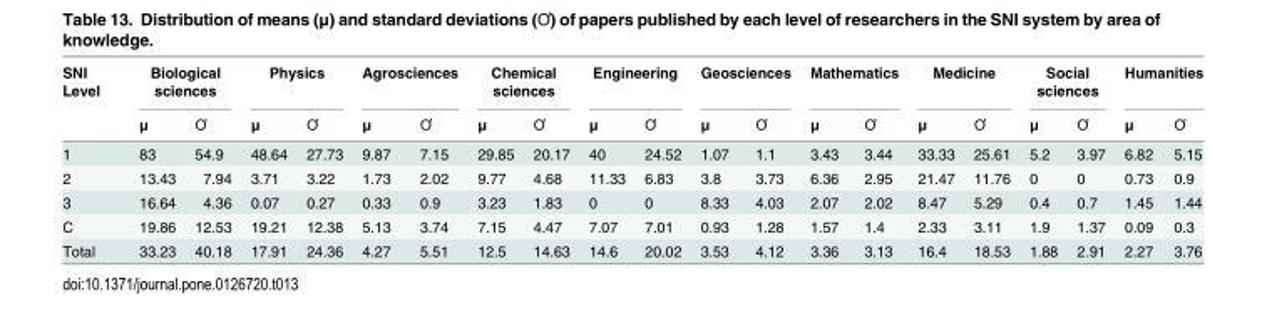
<table><thead><tr><td rowspan="2">SNI Level</td><td colspan="2">Biological sciences</td><td colspan="2">Physics</td><td colspan="2">Agrosciences</td><td colspan="2">Chemical sciences</td><td colspan="2">Engineering</td><td colspan="2">Geosciences</td><td colspan="2">Mathematics</td><td colspan="2">Medicine</td><td colspan="2">Social sciences</td><td colspan="2">Humanities</td></tr><tr><td>μ</td><td>Ơ</td><td>μ</td><td>Ơ</td><td>μ</td><td>Ơ</td><td>μ</td><td>Ơ</td><td>μ</td><td>Ơ</td><td>μ</td><td>Ơ</td><td>μ</td><td>Ơ</td><td>μ</td><td>Ơ</td><td>μ</td><td>Ơ</td><td>μ</td><td>Ơ</td></tr></thead><tbody><tr><td>1</td><td>83</td><td>54.9</td><td>48.64</td><td>27.73</td><td>9.87</td><td>7.15</td><td>29.85</td><td>20.17</td><td>40</td><td>24.52</td><td>1.07</td><td>1.1</td><td>3.43</td><td>3.44</td><td>33.33</td><td>25.61</td><td>5.2</td><td>3.97</td><td>6.82</td><td>5.15</td></tr><tr><td>2</td><td>13.43</td><td>7.94</td><td>3.71</td><td>3.22</td><td>1.73</td><td>2.02</td><td>9.77</td><td>4.68</td><td>11.33</td><td>6.83</td><td>3.8</td><td>3.73</td><td>6.36</td><td>2.95</td><td>21.47</td><td>11.76</td><td>0</td><td>0</td><td>0.73</td><td>0.9</td></tr><tr><td>3</td><td>16.64</td><td>4.36</td><td>0.07</td><td>0.27</td><td>0.33</td><td>0.9</td><td>3.23</td><td>1.83</td><td>0</td><td>0</td><td>8.33</td><td>4.03</td><td>2.07</td><td>2.02</td><td>8.47</td><td>5.29</td><td>0.4</td><td>0.7</td><td>1.45</td><td>1.44</td></tr><tr><td>C</td><td>19.86</td><td>12.53</td><td>19.21</td><td>12.38</td><td>5.13</td><td>3.74</td><td>7.15</td><td>4.47</td><td>7.07</td><td>7.01</td><td>0.93</td><td>1.28</td><td>1.57</td><td>1.4</td><td>2.33</td><td>3.11</td><td>1.9</td><td>1.37</td><td>0.09</td><td>0.3</td></tr><tr><td>Total</td><td>33.23</td><td>40.18</td><td>17.91</td><td>24.36</td><td>4.27</td><td>5.51</td><td>12.5</td><td>14.63</td><td>14.6</td><td>20.02</td><td>3.53</td><td>4.12</td><td>3.36</td><td>3.13</td><td>16.4</td><td>18.53</td><td>1.88</td><td>2.91</td><td>2.27</td><td>3.76</td></tr></tbody></table>